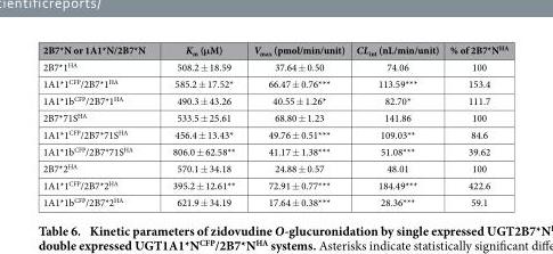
<table><thead><tr><td>2B7*N or 1A1*N/2B7*N</td><td>K<sub>m</sub> (μM)</td><td>V<sub>max</sub> (pmol/min/unit)</td><td>CL<sub>int</sub> (nL/min/unit)</td><td>% of 2B7*N<sup>HA</sup></td></tr></thead><tbody><tr><td>2B7*1<sup>HA</sup></td><td>508.2 ± 18.59</td><td>37.64 ± 0.50</td><td>74.06</td><td>100</td></tr><tr><td>1A1*1<sup>CFP</sup>/2B7*1<sup>HA</sup></td><td>585.2 ± 17.52*</td><td>66.47 ± 0.76***</td><td>113.59***</td><td>153.4</td></tr><tr><td>1A1*1b<sup>CFP</sup>/2B7*1<sup>HA</sup></td><td>490.3 ± 43.26</td><td>40.55 ± 1.26*</td><td>82.70*</td><td>111.7</td></tr><tr><td>2B7*71S<sup>HA</sup></td><td>533.5 ± 25.61</td><td>68.80 ± 1.23</td><td>141.86</td><td>100</td></tr><tr><td>1A1*1<sup>CFP</sup>/2B7*71S<sup>HA</sup></td><td>456.4 ± 13.43*</td><td>49.76 ± 0.51***</td><td>109.03**</td><td>84.6</td></tr><tr><td>1A1*1b<sup>CFP</sup>/2B7*71S<sup>HA</sup></td><td>806.0 ± 62.58**</td><td>41.17 ± 1.38***</td><td>51.08***</td><td>39.62</td></tr><tr><td>2B7*2<sup>HA</sup></td><td>570.1 ± 34.18</td><td>24.88 ± 0.57</td><td>48.01</td><td>100</td></tr><tr><td>1A1*1<sup>CFP</sup>/2B7*2<sup>HA</sup></td><td>395.2 ± 12.61**</td><td>72.91 ± 0.77***</td><td>184.49***</td><td>422.6</td></tr><tr><td>1A1*1b<sup>CFP</sup>/2B7*2<sup>HA</sup></td><td>621.9 ± 34.19</td><td>17.64 ± 0.38***</td><td>28.36***</td><td>59.1</td></tr></tbody></table>